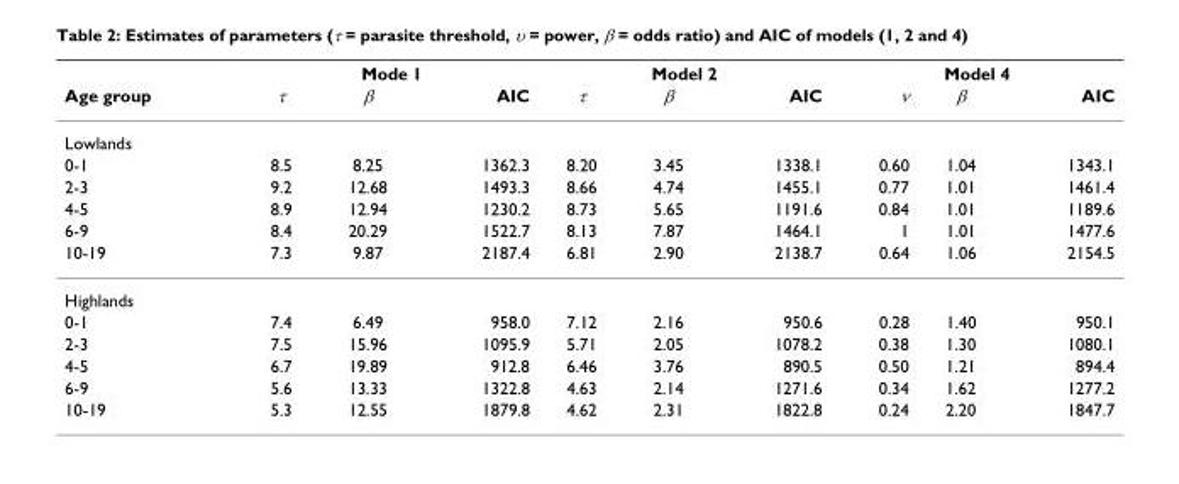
<table><thead><tr><td rowspan="2">Age group</td><td colspan="3">Mode 1</td><td colspan="3">Model 2</td><td colspan="3">Model 4</td></tr><tr><td>τ</td><td>β</td><td>AIC</td><td>τ</td><td>β</td><td>AIC</td><td>ν</td><td>β</td><td>AIC</td></tr></thead><tbody><tr><td colspan="10">Lowlands</td></tr><tr><td>0-1</td><td>8.5</td><td>8.25</td><td>1362.3</td><td>8.20</td><td>3.45</td><td>1338.1</td><td>0.60</td><td>1.04</td><td>1343.1</td></tr><tr><td>2-3</td><td>9.2</td><td>12.68</td><td>1493.3</td><td>8.66</td><td>4.74</td><td>1455.1</td><td>0.77</td><td>1.01</td><td>1461.4</td></tr><tr><td>4-5</td><td>8.9</td><td>12.94</td><td>1230.2</td><td>8.73</td><td>5.65</td><td>1191.6</td><td>0.84</td><td>1.01</td><td>1189.6</td></tr><tr><td>6-9</td><td>8.4</td><td>20.29</td><td>1522.7</td><td>8.13</td><td>7.87</td><td>1464.1</td><td>1</td><td>1.01</td><td>1477.6</td></tr><tr><td>10-19</td><td>7.3</td><td>9.87</td><td>2187.4</td><td>6.81</td><td>2.90</td><td>2138.7</td><td>0.64</td><td>1.06</td><td>2154.5</td></tr><tr><td colspan="10">Highlands</td></tr><tr><td>0-1</td><td>7.4</td><td>6.49</td><td>958.0</td><td>7.12</td><td>2.16</td><td>950.6</td><td>0.28</td><td>1.40</td><td>950.1</td></tr><tr><td>2-3</td><td>7.5</td><td>15.96</td><td>1095.9</td><td>5.71</td><td>2.05</td><td>1078.2</td><td>0.38</td><td>1.30</td><td>1080.1</td></tr><tr><td>4-5</td><td>6.7</td><td>19.89</td><td>912.8</td><td>6.46</td><td>3.76</td><td>890.5</td><td>0.50</td><td>1.21</td><td>894.4</td></tr><tr><td>6-9</td><td>5.6</td><td>13.33</td><td>1322.8</td><td>4.63</td><td>2.14</td><td>1271.6</td><td>0.34</td><td>1.62</td><td>1277.2</td></tr><tr><td>10-19</td><td>5.3</td><td>12.55</td><td>1879.8</td><td>4.62</td><td>2.31</td><td>1822.8</td><td>0.24</td><td>2.20</td><td>1847.7</td></tr></tbody></table>